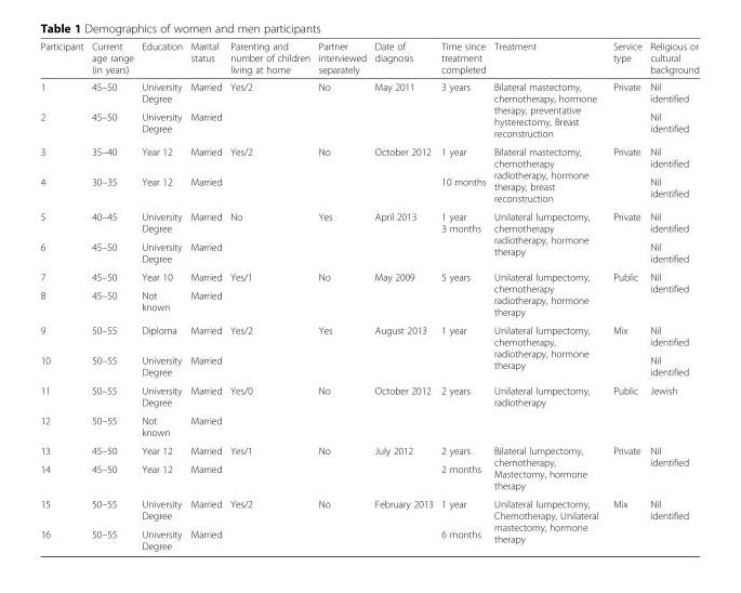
<table><thead><tr><td>Participant</td><td>Current age range (in years)</td><td>Education</td><td>Marital status</td><td>Parenting and number of children living at home</td><td>Partner interviewed separately</td><td>Date of diagnosis</td><td>Time since treatment completed</td><td>Treatment</td><td>Service type</td><td>Religious or cultural background</td></tr></thead><tbody><tr><td>1</td><td>45–50</td><td>University Degree</td><td>Married</td><td rowspan="2">Yes/2</td><td rowspan="2">No</td><td rowspan="2">May 2011</td><td rowspan="2">3 years</td><td rowspan="2">Bilateral mastectomy, chemotherapy, hormone therapy, preventative hysterectomy, Breast reconstruction</td><td rowspan="2">Private</td><td>Nil identified</td></tr><tr><td>2</td><td>45–50</td><td>University Degree</td><td>Married</td><td>Nil identified</td></tr><tr><td>3</td><td>35–40</td><td>Year 12</td><td>Married</td><td rowspan="2">Yes/2</td><td rowspan="2">No</td><td rowspan="2">October 2012</td><td>1 year</td><td rowspan="2">Bilateral mastectomy, chemotherapy radiotherapy, hormone therapy, breast reconstruction</td><td rowspan="2">Private</td><td>Nil identified</td></tr><tr><td>4</td><td>30–35</td><td>Year 12</td><td>Married</td><td>10 months</td><td>Nil identified</td></tr><tr><td>5</td><td>40–45</td><td>University Degree</td><td>Married</td><td>No</td><td rowspan="2">Yes</td><td rowspan="2">April 2013</td><td rowspan="2">1 year 3 months</td><td rowspan="2">Unilateral lumpectomy, chemotherapy radiotherapy, hormone therapy</td><td rowspan="2">Private</td><td>Nil identified</td></tr><tr><td>6</td><td>45–50</td><td>University Degree</td><td>Married</td><td></td><td>Nil identified</td></tr><tr><td>7</td><td>45–50</td><td>Year 10</td><td>Married</td><td rowspan="2">Yes/1</td><td rowspan="2">No</td><td rowspan="2">May 2009</td><td rowspan="2">5 years</td><td rowspan="2">Unilateral lumpectomy, chemotherapy radiotherapy, hormone therapy</td><td rowspan="2">Public</td><td rowspan="2">Nil identified</td></tr><tr><td>8</td><td>45–50</td><td>Not known</td><td>Married</td></tr><tr><td>9</td><td>50–55</td><td>Diploma</td><td>Married</td><td rowspan="2">Yes/2</td><td rowspan="2">Yes</td><td rowspan="2">August 2013</td><td rowspan="2">1 year</td><td rowspan="2">Unilateral lumpectomy, chemotherapy, radiotherapy, hormone therapy</td><td rowspan="2">Mix</td><td>Nil identified</td></tr><tr><td>10</td><td>50–55</td><td>University Degree</td><td>Married</td><td>Nil identified</td></tr><tr><td>11</td><td>50–55</td><td>University Degree</td><td>Married</td><td rowspan="2">Yes/0</td><td rowspan="2">No</td><td rowspan="2">October 2012</td><td rowspan="2">2 years</td><td rowspan="2">Unilateral lumpectomy, radiotherapy</td><td rowspan="2">Public</td><td rowspan="2">Jewish</td></tr><tr><td>12</td><td>50–55</td><td>Not known</td><td>Married</td></tr><tr><td>13</td><td>45–50</td><td>Year 12</td><td>Married</td><td rowspan="2">Yes/1</td><td rowspan="2">No</td><td rowspan="2">July 2012</td><td>2 years</td><td rowspan="2">Bilateral lumpectomy, chemotherapy, Mastectomy, hormone therapy</td><td rowspan="2">Private</td><td rowspan="2">Nil identified</td></tr><tr><td>14</td><td>45–50</td><td>Year 12</td><td>Married</td><td>2 months</td></tr><tr><td>15</td><td>50–55</td><td>University Degree</td><td>Married</td><td rowspan="2">Yes/2</td><td rowspan="2">No</td><td rowspan="2">February 2013</td><td>1 year</td><td rowspan="2">Unilateral lumpectomy, Chemotherapy, Unilateral mastectomy, hormone therapy</td><td rowspan="2">Mix</td><td rowspan="2">Nil identified</td></tr><tr><td>16</td><td>50–55</td><td>University Degree</td><td>Married</td><td>6 months</td></tr></tbody></table>